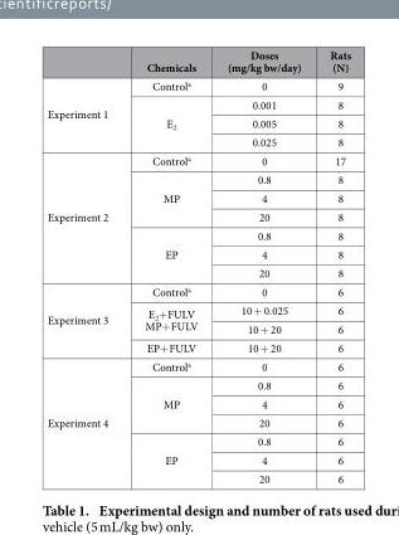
<table><thead><tr><td></td><td>Chemicals</td><td>Doses (mg/kg bw/day)</td><td>Rats (N)</td></tr></thead><tbody><tr><td rowspan="4">Experiment 1</td><td>Control<sup>a</sup></td><td>0</td><td>9</td></tr><tr><td rowspan="3">E<sub>2</sub></td><td>0.001</td><td>8</td></tr><tr><td>0.005</td><td>8</td></tr><tr><td>0.025</td><td>8</td></tr><tr><td rowspan="7">Experiment 2</td><td>Control<sup>a</sup></td><td>0</td><td>17</td></tr><tr><td rowspan="3">MP</td><td>0.8</td><td>8</td></tr><tr><td>4</td><td>8</td></tr><tr><td>20</td><td>8</td></tr><tr><td rowspan="3">EP</td><td>0.8</td><td>8</td></tr><tr><td>4</td><td>8</td></tr><tr><td>20</td><td>8</td></tr><tr><td rowspan="4">Experiment 3</td><td>Control<sup>a</sup></td><td>0</td><td>6</td></tr><tr><td rowspan="2">E<sub>2</sub>+ FULV MP+ FULV</td><td>10 + 0.025</td><td>6</td></tr><tr><td>10 + 20</td><td>6</td></tr><tr><td>EP+ FULV</td><td>10 + 20</td><td>6</td></tr><tr><td rowspan="7">Experiment 4</td><td>Control<sup>a</sup></td><td>0</td><td>6</td></tr><tr><td rowspan="3">MP</td><td>0.8</td><td>6</td></tr><tr><td>4</td><td>6</td></tr><tr><td>20</td><td>6</td></tr><tr><td rowspan="3">EP</td><td>0.8</td><td>6</td></tr><tr><td>4</td><td>6</td></tr><tr><td>20</td><td>6</td></tr></tbody></table>